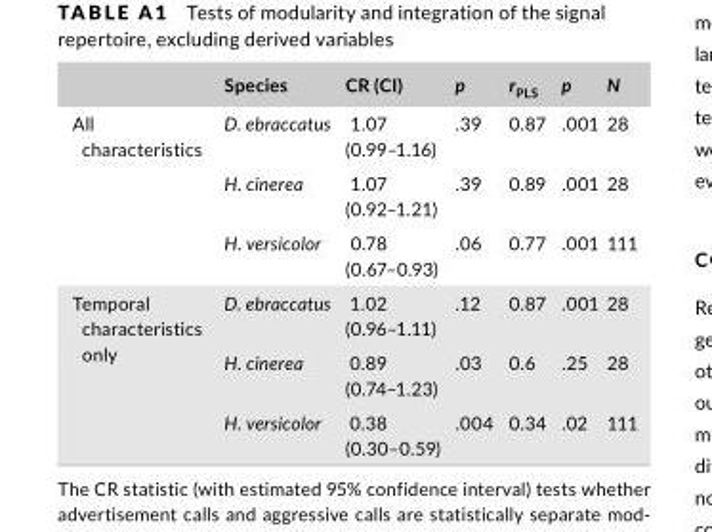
<table><thead><tr><td></td><td>Species</td><td>CR (CI)</td><td>p</td><td>r<sub>PLS</sub></td><td>p</td><td>N</td></tr></thead><tbody><tr><td rowspan="3">All characteristics</td><td>D. ebraccatus</td><td>1.07 (0.99–1.16)</td><td>.39</td><td>0.87</td><td>.001</td><td>28</td></tr><tr><td>H. cinerea</td><td>1.07 (0.92–1.21)</td><td>.39</td><td>0.89</td><td>.001</td><td>28</td></tr><tr><td>H. versicolor</td><td>0.78 (0.67–0.93)</td><td>.06</td><td>0.77</td><td>.001</td><td>111</td></tr><tr><td rowspan="3">Temporal characteristics only</td><td>D. ebraccatus</td><td>1.02 (0.96–1.11)</td><td>.12</td><td>0.87</td><td>.001</td><td>28</td></tr><tr><td>H. cinerea</td><td>0.89 (0.74–1.23)</td><td>.03</td><td>0.6</td><td>.25</td><td>28</td></tr><tr><td>H. versicolor</td><td>0.38 (0.30–0.59)</td><td>.004</td><td>0.34</td><td>.02</td><td>111</td></tr></tbody></table>